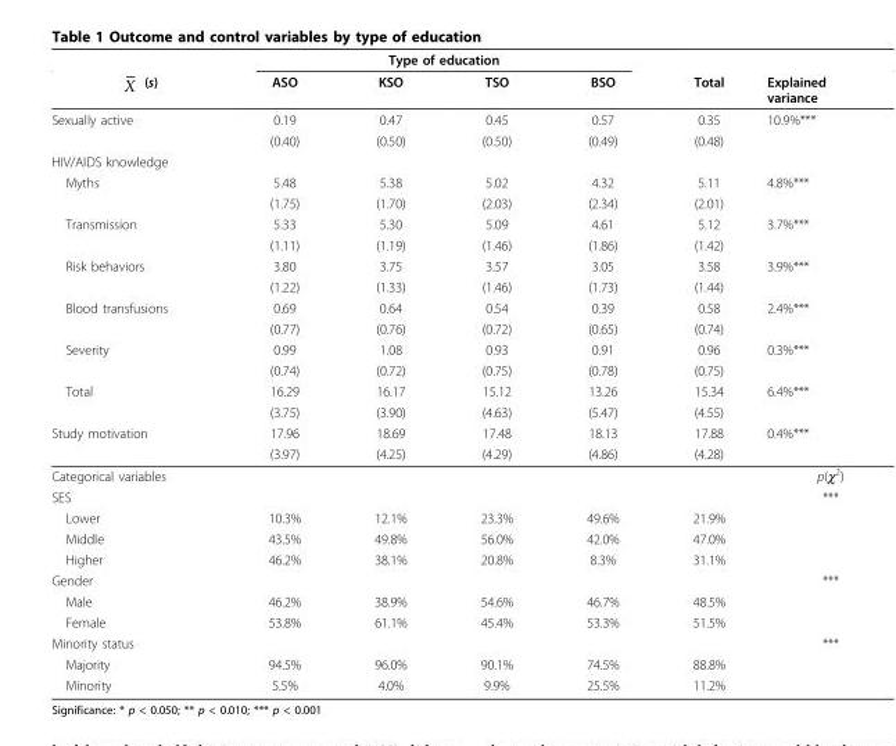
<table><thead><tr><td rowspan="2">X (s)</td><td colspan="4">Type of education</td><td rowspan="2">Total</td><td rowspan="2">Explained variance</td></tr><tr><td>ASO</td><td>KSO</td><td>TSO</td><td>BSO</td></tr></thead><tbody><tr><td rowspan="2">Sexually active</td><td>0.19</td><td>0.47</td><td>0.45</td><td>0.57</td><td>0.35</td><td>10.9%***</td></tr><tr><td>(0.40)</td><td>(0.50)</td><td>(0.50)</td><td>(0.49)</td><td>(0.48)</td><td></td></tr><tr><td colspan="7">HIV/AIDS knowledge</td></tr><tr><td rowspan="2">Myths</td><td>5.48</td><td>5.38</td><td>5.02</td><td>4.32</td><td>5.11</td><td>4.8%***</td></tr><tr><td>(1.75)</td><td>(1.70)</td><td>(2.03)</td><td>(2.34)</td><td>(2.01)</td><td></td></tr><tr><td rowspan="2">Transmission</td><td>5.33</td><td>5.30</td><td>5.09</td><td>4.61</td><td>5.12</td><td>3.7%***</td></tr><tr><td>(1.11)</td><td>(1.19)</td><td>(1.46)</td><td>(1.86)</td><td>(1.42)</td><td></td></tr><tr><td rowspan="2">Risk behaviors</td><td>3.80</td><td>3.75</td><td>3.57</td><td>3.05</td><td>3.58</td><td>3.9%***</td></tr><tr><td>(1.22)</td><td>(1.33)</td><td>(1.46)</td><td>(1.73)</td><td>(1.44)</td><td></td></tr><tr><td rowspan="2">Blood transfusions</td><td>0.69</td><td>0.64</td><td>0.54</td><td>0.39</td><td>0.58</td><td>2.4%***</td></tr><tr><td>(0.77)</td><td>(0.76)</td><td>(0.72)</td><td>(0.65)</td><td>(0.74)</td><td></td></tr><tr><td rowspan="2">Severity</td><td>0.99</td><td>1.08</td><td>0.93</td><td>0.91</td><td>0.96</td><td>0.3%***</td></tr><tr><td>(0.74)</td><td>(0.72)</td><td>(0.75)</td><td>(0.78)</td><td>(0.75)</td><td></td></tr><tr><td rowspan="2">Total</td><td>16.29</td><td>16.17</td><td>15.12</td><td>13.26</td><td>15.34</td><td>6.4%***</td></tr><tr><td>(3.75)</td><td>(3.90)</td><td>(4.63)</td><td>(5.47)</td><td>(4.55)</td><td></td></tr><tr><td rowspan="2">Study motivation</td><td>17.96</td><td>18.69</td><td>17.48</td><td>18.13</td><td>17.88</td><td>0.4%***</td></tr><tr><td>(3.97)</td><td>(4.25)</td><td>(4.29)</td><td>(4.86)</td><td>(4.28)</td><td></td></tr><tr><td>Categorical variables</td><td></td><td></td><td></td><td></td><td></td><td>p(χ<sup>2</sup>)</td></tr><tr><td>SES</td><td></td><td></td><td></td><td></td><td></td><td>***</td></tr><tr><td>Lower</td><td>10.3%</td><td>12.1%</td><td>23.3%</td><td>49.6%</td><td>21.9%</td><td></td></tr><tr><td>Middle</td><td>43.5%</td><td>49.8%</td><td>56.0%</td><td>42.0%</td><td>47.0%</td><td></td></tr><tr><td>Higher</td><td>46.2%</td><td>38.1%</td><td>20.8%</td><td>8.3%</td><td>31.1%</td><td></td></tr><tr><td>Gender</td><td></td><td></td><td></td><td></td><td></td><td>***</td></tr><tr><td>Male</td><td>46.2%</td><td>38.9%</td><td>54.6%</td><td>46.7%</td><td>48.5%</td><td></td></tr><tr><td>Female</td><td>53.8%</td><td>61.1%</td><td>45.4%</td><td>53.3%</td><td>51.5%</td><td></td></tr><tr><td>Minority status</td><td></td><td></td><td></td><td></td><td></td><td>***</td></tr><tr><td>Majority</td><td>94.5%</td><td>96.0%</td><td>90.1%</td><td>74.5%</td><td>88.8%</td><td></td></tr><tr><td>Minority</td><td>5.5%</td><td>4.0%</td><td>9.9%</td><td>25.5%</td><td>11.2%</td><td></td></tr></tbody></table>